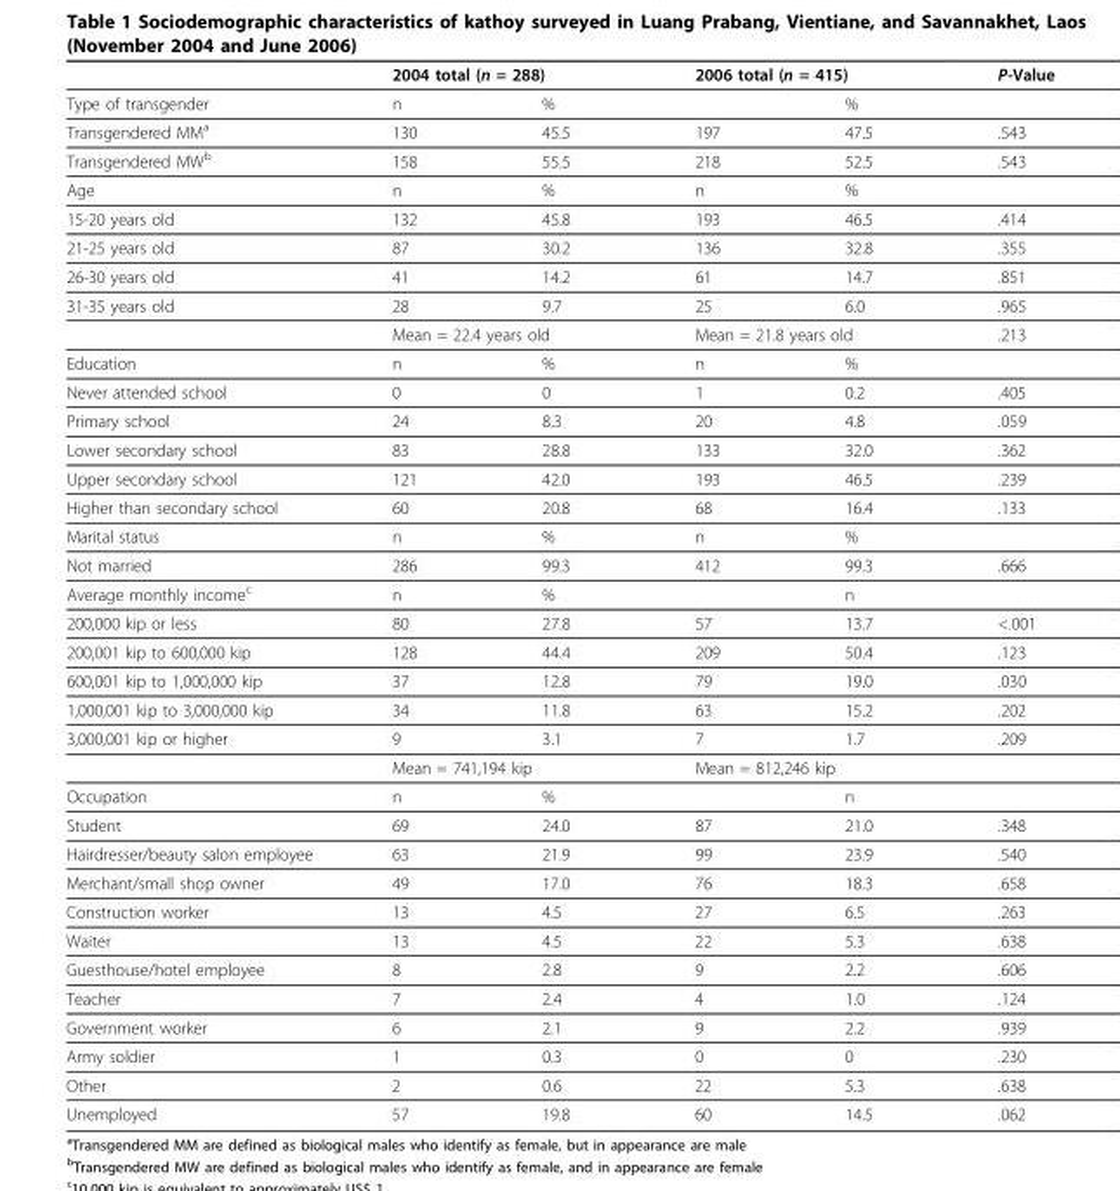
<table><thead><tr><td rowspan="2">Type of transgender</td><td colspan="2">2004 total (n = 288)</td><td colspan="2">2006 total (n = 415)</td><td rowspan="2">P-Value</td></tr><tr><td>n</td><td>%</td><td></td><td>%</td></tr></thead><tbody><tr><td>Transgendered MM<sup>a</sup></td><td>130</td><td>45.5</td><td>197</td><td>47.5</td><td>.543</td></tr><tr><td>Transgendered MW<sup>b</sup></td><td>158</td><td>55.5</td><td>218</td><td>52.5</td><td>.543</td></tr><tr><td>Age</td><td>n</td><td>%</td><td>n</td><td>%</td><td></td></tr><tr><td>15-20 years old</td><td>132</td><td>45.8</td><td>193</td><td>46.5</td><td>.414</td></tr><tr><td>21-25 years old</td><td>87</td><td>30.2</td><td>136</td><td>32.8</td><td>.355</td></tr><tr><td>26-30 years old</td><td>41</td><td>14.2</td><td>61</td><td>14.7</td><td>.851</td></tr><tr><td rowspan="2">31-35 years old</td><td>28</td><td>9.7</td><td>25</td><td>6.0</td><td>.965</td></tr><tr><td colspan="2">Mean = 22.4 years old</td><td colspan="2">Mean = 21.8 years old</td><td>.213</td></tr><tr><td>Education</td><td>n</td><td>%</td><td>n</td><td>%</td><td></td></tr><tr><td>Never attended school</td><td>0</td><td>0</td><td>1</td><td>0.2</td><td>.405</td></tr><tr><td>Primary school</td><td>24</td><td>8.3</td><td>20</td><td>4.8</td><td>.059</td></tr><tr><td>Lower secondary school</td><td>83</td><td>28.8</td><td>133</td><td>32.0</td><td>.362</td></tr><tr><td>Upper secondary school</td><td>121</td><td>42.0</td><td>193</td><td>46.5</td><td>.239</td></tr><tr><td>Higher than secondary school</td><td>60</td><td>20.8</td><td>68</td><td>16.4</td><td>.133</td></tr><tr><td>Marital status</td><td>n</td><td>%</td><td>n</td><td>%</td><td></td></tr><tr><td>Not married</td><td>286</td><td>99.3</td><td>412</td><td>99.3</td><td>.666</td></tr><tr><td>Average monthly income<sup>c</sup></td><td>n</td><td>%</td><td></td><td>n</td><td></td></tr><tr><td>200,000 kip or less</td><td>80</td><td>27.8</td><td>57</td><td>13.7</td><td>&lt;.001</td></tr><tr><td>200,001 kip to 600,000 kip</td><td>128</td><td>44.4</td><td>209</td><td>50.4</td><td>.123</td></tr><tr><td>600,001 kip to 1,000,000 kip</td><td>37</td><td>12.8</td><td>79</td><td>19.0</td><td>.030</td></tr><tr><td>1,000,001 kip to 3,000,000 kip</td><td>34</td><td>11.8</td><td>63</td><td>15.2</td><td>.202</td></tr><tr><td rowspan="2">3,000,001 kip or higher</td><td>9</td><td>3.1</td><td>7</td><td>1.7</td><td>.209</td></tr><tr><td colspan="2">Mean = 741,194 kip</td><td colspan="2">Mean = 812,246 kip</td><td></td></tr><tr><td>Occupation</td><td>n</td><td>%</td><td></td><td>n</td><td></td></tr><tr><td>Student</td><td>69</td><td>24.0</td><td>87</td><td>21.0</td><td>.348</td></tr><tr><td>Hairdresser/beauty salon employee</td><td>63</td><td>21.9</td><td>99</td><td>23.9</td><td>.540</td></tr><tr><td>Merchant/small shop owner</td><td>49</td><td>17.0</td><td>76</td><td>18.3</td><td>.658</td></tr><tr><td>Construction worker</td><td>13</td><td>4.5</td><td>27</td><td>6.5</td><td>.263</td></tr><tr><td>Waiter</td><td>13</td><td>4.5</td><td>22</td><td>5.3</td><td>.638</td></tr><tr><td>Guesthouse/hotel employee</td><td>8</td><td>2.8</td><td>9</td><td>2.2</td><td>.606</td></tr><tr><td>Teacher</td><td>7</td><td>2.4</td><td>4</td><td>1.0</td><td>.124</td></tr><tr><td>Government worker</td><td>6</td><td>2.1</td><td>9</td><td>2.2</td><td>.939</td></tr><tr><td>Army soldier</td><td>1</td><td>0.3</td><td>0</td><td>0</td><td>.230</td></tr><tr><td>Other</td><td>2</td><td>0.6</td><td>22</td><td>5.3</td><td>.638</td></tr><tr><td>Unemployed</td><td>57</td><td>19.8</td><td>60</td><td>14.5</td><td>.062</td></tr></tbody></table>